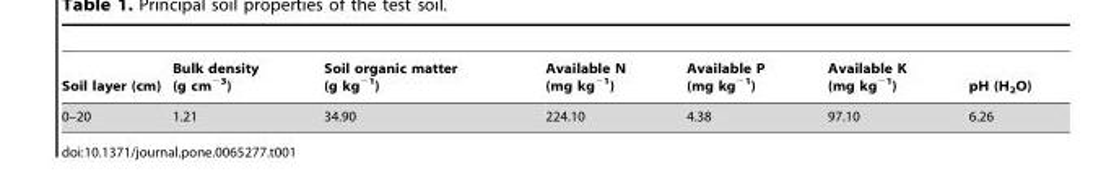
<table><thead><tr><td>Soil layer (cm)</td><td>Bulk density (g cm<sup>−3</sup>)</td><td>Soil organic matter (g kg<sup>−1</sup>)</td><td>Available N (mg kg<sup>−1</sup>)</td><td>Available P (mg kg<sup>−1</sup>)</td><td>Available K (mg kg<sup>−1</sup>)</td><td>pH (H<sub>2</sub>O)</td></tr></thead><tbody><tr><td>0–20</td><td>1.21</td><td>34.90</td><td>224.10</td><td>4.38</td><td>97.10</td><td>6.26</td></tr></tbody></table>